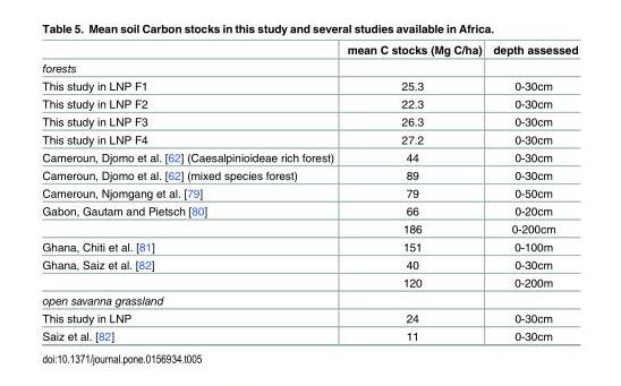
<table><thead><tr><td></td><td>mean C stocks (Mg C/ha)</td><td>depth assessed</td></tr></thead><tbody><tr><td colspan="3">forests</td></tr><tr><td>This study in LNP F1</td><td>25.3</td><td>0-30cm</td></tr><tr><td>This study in LNP F2</td><td>22.3</td><td>0-30cm</td></tr><tr><td>This study in LNP F3</td><td>26.3</td><td>0-30cm</td></tr><tr><td>This study in LNP F4</td><td>27.2</td><td>0-30cm</td></tr><tr><td>Cameroun, Djomo et al. [62] (Caesalpinioideae rich forest)</td><td>44</td><td>0-30cm</td></tr><tr><td>Cameroun, Djomo et al. [62] (mixed species forest)</td><td>89</td><td>0-30cm</td></tr><tr><td>Cameroun, Njomgang et al. [79]</td><td>79</td><td>0-50cm</td></tr><tr><td rowspan="2">Gabon, Gautam and Pietsch [80]</td><td>66</td><td>0-20cm</td></tr><tr><td>186</td><td>0-200cm</td></tr><tr><td>Ghana, Chiti et al. [81]</td><td>151</td><td>0-100m</td></tr><tr><td rowspan="2">Ghana, Saiz et al. [82]</td><td>40</td><td>0-30cm</td></tr><tr><td>120</td><td>0-200m</td></tr><tr><td colspan="3">open savanna grassland</td></tr><tr><td>This study in LNP</td><td>24</td><td>0-30cm</td></tr><tr><td>Saiz et al. [82]</td><td>11</td><td>0-30cm</td></tr></tbody></table>